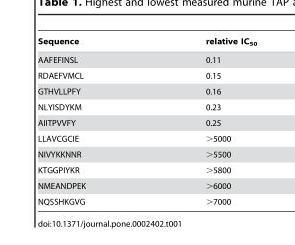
<table><thead><tr><td>Sequence</td><td>relative IC<sub>50</sub></td></tr></thead><tbody><tr><td>AAFEFINSL</td><td>0.11</td></tr><tr><td>RDAEFVMCL</td><td>0.15</td></tr><tr><td>GTHVLLPFY</td><td>0.16</td></tr><tr><td>NLYISDYKM</td><td>0.23</td></tr><tr><td>AIITPVVFY</td><td>0.25</td></tr><tr><td>LLAVCGCIE</td><td>&gt;5000</td></tr><tr><td>NIVYKKNNR</td><td>&gt;5500</td></tr><tr><td>KTGGPIYKR</td><td>&gt;5800</td></tr><tr><td>NMEANDPEK</td><td>&gt;6000</td></tr><tr><td>NQSSHKGVG</td><td>&gt;7000</td></tr></tbody></table>